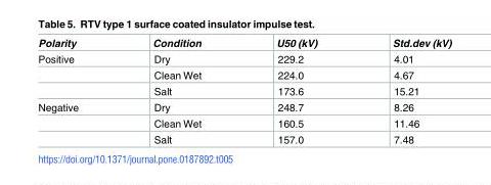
<table><thead><tr><td>Polarity</td><td>Condition</td><td>U50 (kV)</td><td>Std.dev (kV)</td></tr></thead><tbody><tr><td rowspan="3">Positive</td><td>Dry</td><td>229.2</td><td>4.01</td></tr><tr><td>Clean Wet</td><td>224.0</td><td>4.67</td></tr><tr><td>Salt</td><td>173.6</td><td>15.21</td></tr><tr><td rowspan="3">Negative</td><td>Dry</td><td>248.7</td><td>8.26</td></tr><tr><td>Clean Wet</td><td>160.5</td><td>11.46</td></tr><tr><td>Salt</td><td>157.0</td><td>7.48</td></tr></tbody></table>